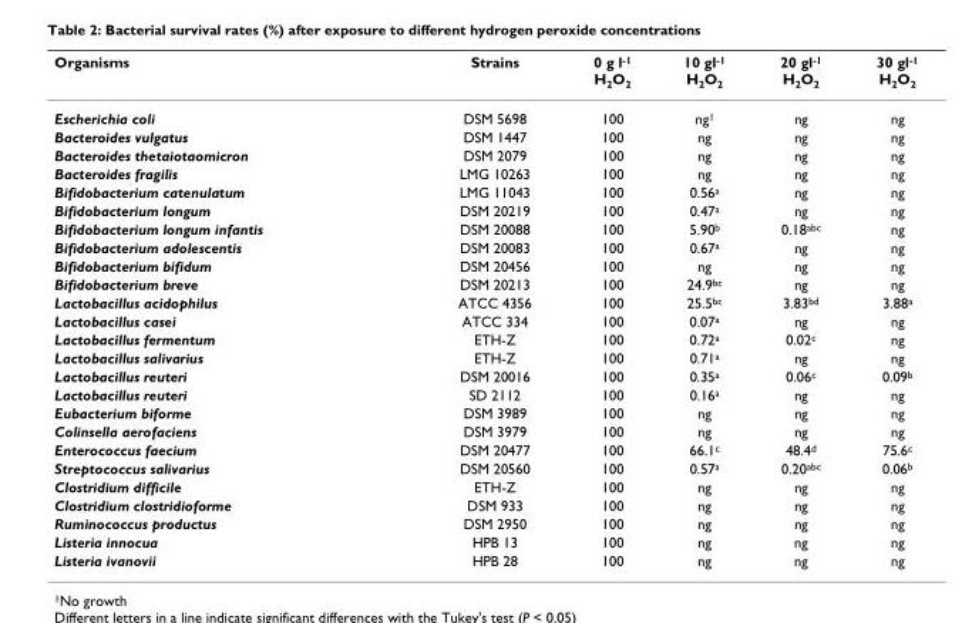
<table><thead><tr><td>Organisms</td><td>Strains</td><td>0 g l<sup>-1</sup> H<sub>2</sub>O<sub>2</sub></td><td>10 gl<sup>-1</sup> H<sub>2</sub>O<sub>2</sub></td><td>20 gl<sup>-1</sup> H<sub>2</sub>O<sub>2</sub></td><td>30 gl<sup>-1</sup> H<sub>2</sub>O<sub>2</sub></td></tr></thead><tbody><tr><td>Escherichia coli</td><td>DSM 5698</td><td>100</td><td>ng<sup>1</sup></td><td>ng</td><td>ng</td></tr><tr><td>Bacteroides vulgatus</td><td>DSM 1447</td><td>100</td><td>ng</td><td>ng</td><td>ng</td></tr><tr><td>Bacteroides thetaiotaomicron</td><td>DSM 2079</td><td>100</td><td>ng</td><td>ng</td><td>ng</td></tr><tr><td>Bacteroides fragilis</td><td>LMG 10263</td><td>100</td><td>ng</td><td>ng</td><td>ng</td></tr><tr><td>Bifidobacterium catenulatum</td><td>LMG 11043</td><td>100</td><td>0.56<sup>a</sup></td><td>ng</td><td>ng</td></tr><tr><td>Bifidobacterium longum</td><td>DSM 20219</td><td>100</td><td>0.47<sup>a</sup></td><td>ng</td><td>ng</td></tr><tr><td>Bifidobacterium longum infantis</td><td>DSM 20088</td><td>100</td><td>5.90<sup>b</sup></td><td>0.18<sup>abc</sup></td><td>ng</td></tr><tr><td>Bifidobacterium adolescentis</td><td>DSM 20083</td><td>100</td><td>0.67<sup>a</sup></td><td>ng</td><td>ng</td></tr><tr><td>Bifidobacterium bifidum</td><td>DSM 20456</td><td>100</td><td>ng</td><td>ng</td><td>ng</td></tr><tr><td>Bifidobacterium breve</td><td>DSM 20213</td><td>100</td><td>24.9<sup>bc</sup></td><td>ng</td><td>ng</td></tr><tr><td>Lactobacillus acidophilus</td><td>ATCC 4356</td><td>100</td><td>25.5<sup>bc</sup></td><td>3.83<sup>bd</sup></td><td>3.88<sup>a</sup></td></tr><tr><td>Lactobacillus casei</td><td>ATCC 334</td><td>100</td><td>0.07<sup>a</sup></td><td>ng</td><td>ng</td></tr><tr><td>Lactobacillus fermentum</td><td>ETH-Z</td><td>100</td><td>0.72<sup>a</sup></td><td>0.02<sup>c</sup></td><td>ng</td></tr><tr><td>Lactobacillus salivarius</td><td>ETH-Z</td><td>100</td><td>0.71<sup>a</sup></td><td>ng</td><td>ng</td></tr><tr><td>Lactobacillus reuteri</td><td>DSM 20016</td><td>100</td><td>0.35<sup>a</sup></td><td>0.06<sup>c</sup></td><td>0.09<sup>b</sup></td></tr><tr><td>Lactobacillus reuteri</td><td>SD 2112</td><td>100</td><td>0.16<sup>a</sup></td><td>ng</td><td>ng</td></tr><tr><td>Eubacterium biforme</td><td>DSM 3989</td><td>100</td><td>ng</td><td>ng</td><td>ng</td></tr><tr><td>Colinsella aerofaciens</td><td>DSM 3979</td><td>100</td><td>ng</td><td>ng</td><td>ng</td></tr><tr><td>Enterococcus faecium</td><td>DSM 20477</td><td>100</td><td>66.1<sup>c</sup></td><td>48.4<sup>d</sup></td><td>75.6<sup>c</sup></td></tr><tr><td>Streptococcus salivarius</td><td>DSM 20560</td><td>100</td><td>0.57<sup>a</sup></td><td>0.20<sup>abc</sup></td><td>0.06<sup>b</sup></td></tr><tr><td>Clostridium difficile</td><td>ETH-Z</td><td>100</td><td>ng</td><td>ng</td><td>ng</td></tr><tr><td>Clostridium clostridioforme</td><td>DSM 933</td><td>100</td><td>ng</td><td>ng</td><td>ng</td></tr><tr><td>Ruminococcus productus</td><td>DSM 2950</td><td>100</td><td>ng</td><td>ng</td><td>ng</td></tr><tr><td>Listeria innocua</td><td>HPB 13</td><td>100</td><td>ng</td><td>ng</td><td>ng</td></tr><tr><td>Listeria ivanovii</td><td>HPB 28</td><td>100</td><td>ng</td><td>ng</td><td>ng</td></tr></tbody></table>